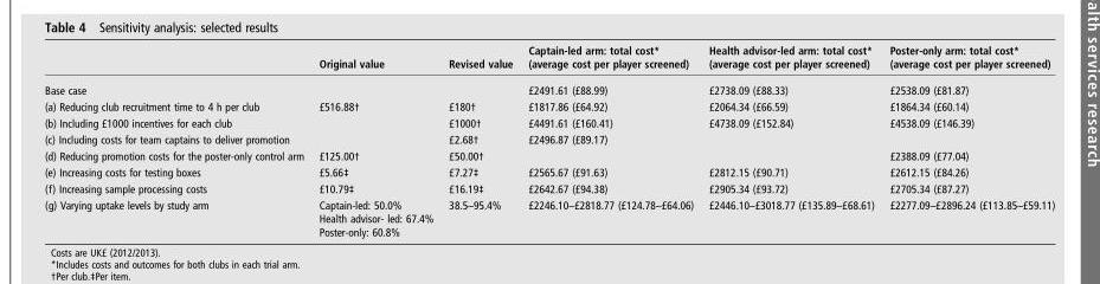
<table><thead><tr><td></td><td>Original value</td><td>Revised value</td><td>Captain-led arm: total cost* (average cost per player screened)</td><td>Health advisor-led arm: total cost* (average cost per player screened)</td><td>Poster-only arm: total cost* (average cost per player screened)</td></tr></thead><tbody><tr><td>Base case</td><td></td><td></td><td>£2491.61 (£88.99)</td><td>£2738.09 (£88.33)</td><td>£2538.09 (£81.87)</td></tr><tr><td>(a) Reducing club recruitment time to 4 h per club</td><td>£516.88†</td><td>£180†</td><td>£1817.86 (£64.92)</td><td>£2064.34 (£66.59)</td><td>£1864.34 (£60.14)</td></tr><tr><td>(b) Including £1000 incentives for each club</td><td></td><td>£1000†</td><td>£4491.61 (£160.41)</td><td>£4738.09 (£152.84)</td><td>£4538.09 (£146.39)</td></tr><tr><td>(c) Including costs for team captains to deliver promotion</td><td></td><td>£2.68†</td><td>£2496.87 (£89.17)</td><td></td><td></td></tr><tr><td>(d) Reducing promotion costs for the poster-only control arm</td><td>£125.00†</td><td>£50.00†</td><td></td><td></td><td>£2388.09 (£77.04)</td></tr><tr><td>(e) Increasing costs for testing boxes</td><td>£5.66‡</td><td>£7.27‡</td><td>£2565.67 (£91.63)</td><td>£2812.15 (£90.71)</td><td>£2612.15 (£84.26)</td></tr><tr><td>(f) Increasing sample processing costs</td><td>£10.79‡</td><td>£16.19‡</td><td>£2642.67 (£94.38)</td><td>£2905.34 (£93.72)</td><td>£2705.34 (£87.27)</td></tr><tr><td>(g) Varying uptake levels by study arm</td><td>Captain-led: 50.0% Health advisor- led: 67.4% Poster-only: 60.8%</td><td>38.5–95.4%</td><td>£2246.10–£2818.77 (£124.78–£64.06)</td><td>£2446.10–£3018.77 (£135.89–£68.61)</td><td>£2277.09–£2896.24 (£113.85–£59.11)</td></tr></tbody></table>